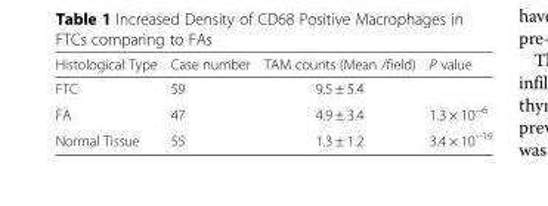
<table><thead><tr><td>Histological Type</td><td>Case number</td><td>TAM counts (Mean /field)</td><td>P value</td></tr></thead><tbody><tr><td>FTC</td><td>59</td><td>9.5 ± 5.4</td><td></td></tr><tr><td>FA</td><td>47</td><td>4.9 ± 3.4</td><td>1.3 × 10<sup>−6</sup></td></tr><tr><td>Normal Tissue</td><td>55</td><td>1.3 ± 1.2</td><td>3.4 × 10<sup>−19</sup></td></tr></tbody></table>